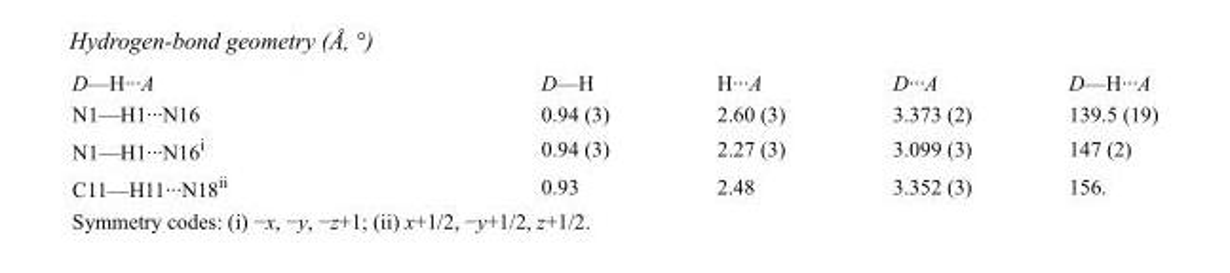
<table><tbody><tr><td>D—H···A</td><td>D—H</td><td>H···A</td><td>D···A</td><td>D—H···A</td></tr><tr><td>N1—H1···N16</td><td>0.94 (3)</td><td>2.60 (3)</td><td>3.373 (2)</td><td>139.5 (19)</td></tr><tr><td>N1—H1···N16<sup>i</sup></td><td>0.94 (3)</td><td>2.27 (3)</td><td>3.099 (3)</td><td>147 (2)</td></tr><tr><td>C11—H11···N18<sup>ii</sup></td><td>0.93</td><td>2.48</td><td>3.352 (3)</td><td>156.</td></tr></tbody></table>